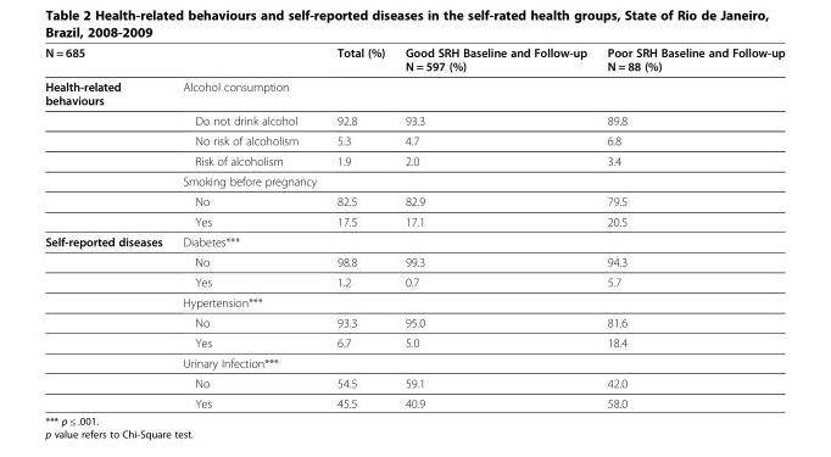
<table><thead><tr><td>N = 685</td><td></td><td>Total (%)</td><td>Good SRH Baseline and Follow-up N = 597 (%)</td><td>Poor SRH Baseline and Follow-up N = 88 (%)</td></tr></thead><tbody><tr><td rowspan="7">Health-related behaviours</td><td>Alcohol consumption</td><td></td><td></td><td></td></tr><tr><td>Do not drink alcohol</td><td>92.8</td><td>93.3</td><td>89.8</td></tr><tr><td>No risk of alcoholism</td><td>5.3</td><td>4.7</td><td>6.8</td></tr><tr><td>Risk of alcoholism</td><td>1.9</td><td>2.0</td><td>3.4</td></tr><tr><td>Smoking before pregnancy</td><td></td><td></td><td></td></tr><tr><td>No</td><td>82.5</td><td>82.9</td><td>79.5</td></tr><tr><td>Yes</td><td>17.5</td><td>17.1</td><td>20.5</td></tr><tr><td rowspan="9">Self-reported diseases</td><td>Diabetes***</td><td></td><td></td><td></td></tr><tr><td>No</td><td>98.8</td><td>99.3</td><td>94.3</td></tr><tr><td>Yes</td><td>1.2</td><td>0.7</td><td>5.7</td></tr><tr><td>Hypertension***</td><td></td><td></td><td></td></tr><tr><td>No</td><td>93.3</td><td>95.0</td><td>81.6</td></tr><tr><td>Yes</td><td>6.7</td><td>5.0</td><td>18.4</td></tr><tr><td>Urinary Infection***</td><td></td><td></td><td></td></tr><tr><td>No</td><td>54.5</td><td>59.1</td><td>42.0</td></tr><tr><td>Yes</td><td>45.5</td><td>40.9</td><td>58.0</td></tr></tbody></table>